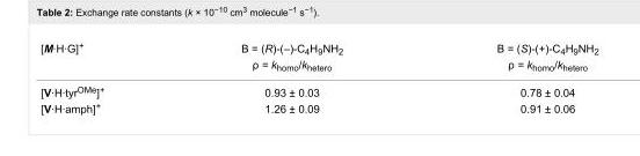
<table><tbody><tr><td rowspan="2">[M∙H∙G]<sup>+</sup></td><td>B = (R)-(–)-C<sub>4</sub>H<sub>9</sub>NH<sub>2</sub></td><td>B = (S)-(+)-C<sub>4</sub>H<sub>9</sub>NH<sub>2</sub></td></tr><tr><td>ρ = k<sub>homo</sub>/k<sub>hetero</sub></td><td>ρ = k<sub>homo</sub>/k<sub>hetero</sub></td></tr><tr><td>[V∙H∙tyr<sup>OMe</sup>]<sup>+</sup></td><td>0.93 ± 0.03</td><td>0.78 ± 0.04</td></tr><tr><td>[V∙H∙amph]<sup>+</sup></td><td>1.26 ± 0.09</td><td>0.91 ± 0.06</td></tr></tbody></table>